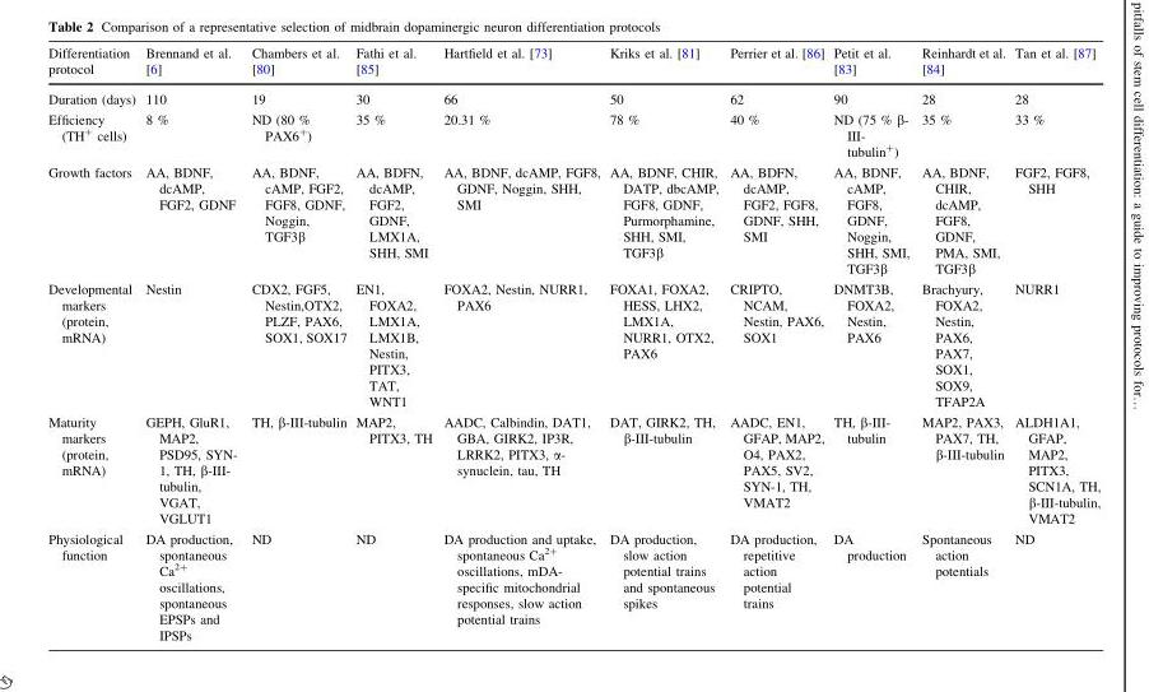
<table><thead><tr><td>Differentiation protocol</td><td>Brennand et al. [6]</td><td>Chambers et al. [80]</td><td>Fathi et al. [85]</td><td>Hartfield et al. [73]</td><td>Kriks et al. [81]</td><td>Perrier et al. [86]</td><td>Petit et al. [83]</td><td>Reinhardt et al. [84]</td><td>Tan et al. [87]</td></tr></thead><tbody><tr><td>Duration (days)</td><td>110</td><td>19</td><td>30</td><td>66</td><td>50</td><td>62</td><td>90</td><td>28</td><td>28</td></tr><tr><td>Efficiency (TH<sup>+</sup> cells)</td><td>8 %</td><td>ND (80 % PAX6<sup>+</sup>)</td><td>35 %</td><td>20.31 %</td><td>78 %</td><td>40 %</td><td>ND (75 % β- III- tubulin<sup>+</sup>)</td><td>35 %</td><td>33 %</td></tr><tr><td>Growth factors</td><td>AA, BDNF, dcAMP, FGF2, GDNF</td><td>AA, BDNF, cAMP, FGF2, FGF8, GDNF, Noggin, TGF3β</td><td>AA, BDFN, dcAMP, FGF2, GDNF, LMX1A, SHH, SMI</td><td>AA, BDNF, dcAMP, FGF8, GDNF, Noggin, SHH, SMI</td><td>AA, BDNF, CHIR, DATP, dbcAMP, FGF8, GDNF, Purmorphamine, SHH, SMI, TGF3β</td><td>AA, BDFN, dcAMP, FGF2, FGF8, GDNF, SHH, SMI</td><td>AA, BDNF, cAMP, FGF8, GDNF, Noggin, SHH, SMI, TGF3β</td><td>AA, BDNF, CHIR, dcAMP, FGF8, GDNF, PMA, SMI, TGF3β</td><td>FGF2, FGF8, SHH</td></tr><tr><td>Developmental markers (protein, mRNA)</td><td>Nestin</td><td>CDX2, FGF5, Nestin,OTX2, PLZF, PAX6, SOX1, SOX17</td><td>EN1, FOXA2, LMX1A, LMX1B, Nestin, PITX3, TAT, WNT1</td><td>FOXA2, Nestin, NURR1, PAX6</td><td>FOXA1, FOXA2, HESS, LHX2, LMX1A, NURR1, OTX2, PAX6</td><td>CRIPTO, NCAM, Nestin, PAX6, SOX1</td><td>DNMT3B, FOXA2, Nestin, PAX6</td><td>Brachyury, FOXA2, Nestin, PAX6, PAX7, SOX1, SOX9, TFAP2A</td><td>NURR1</td></tr><tr><td>Maturity markers (protein, mRNA)</td><td>GEPH, GluR1, MAP2, PSD95, SYN- 1, TH, β-III- tubulin, VGAT, VGLUT1</td><td>TH, β-III-tubulin</td><td>MAP2, PITX3, TH</td><td>AADC, Calbindin, DAT1, GBA, GIRK2, IP3R, LRRK2, PITX3, α- synuclein, tau, TH</td><td>DAT, GIRK2, TH, β-III-tubulin</td><td>AADC, EN1, GFAP, MAP2, O4, PAX2, PAX5, SV2, SYN-1, TH, VMAT2</td><td>TH, β-III- tubulin</td><td>MAP2, PAX3, PAX7, TH, β-III-tubulin</td><td>ALDH1A1, GFAP, MAP2, PITX3, SCN1A, TH, β-III-tubulin, VMAT2</td></tr><tr><td>Physiological function</td><td>DA production, spontaneous Ca<sup>2+</sup> oscillations, spontaneous EPSPs and IPSPs</td><td>ND</td><td>ND</td><td>DA production and uptake, spontaneous Ca<sup>2+</sup> oscillations, mDA- specific mitochondrial responses, slow action potential trains</td><td>DA production, slow action potential trains and spontaneous spikes</td><td>DA production, repetitive action potential trains</td><td>DA production</td><td>Spontaneous action potentials</td><td>ND</td></tr></tbody></table>